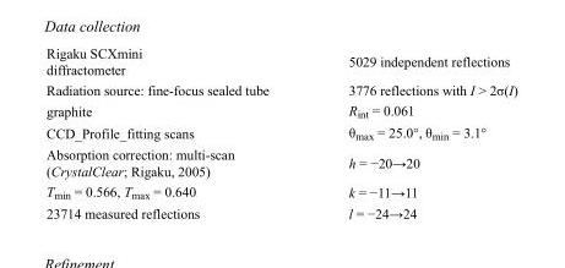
<table><tbody><tr><td>Rigaku SCXmini diffractometer</td><td>5029 independent reflections</td></tr><tr><td>Radiation source: fine-focus sealed tube</td><td>3776 reflections with I &gt; 2σ(I)</td></tr><tr><td>graphite</td><td>R<sub>int</sub> = 0.061</td></tr><tr><td>CCD_Profile_fitting scans</td><td>θ<sub>max</sub> = 25.0°, θ<sub>min</sub> = 3.1°</td></tr><tr><td>Absorption correction: multi-scan (CrystalClear; Rigaku, 2005)</td><td>h = −20→20</td></tr><tr><td>T<sub>min</sub> = 0.566, T<sub>max</sub> = 0.640</td><td>k = −11→11</td></tr><tr><td>23714 measured reflections</td><td>l = −24→24</td></tr></tbody></table>